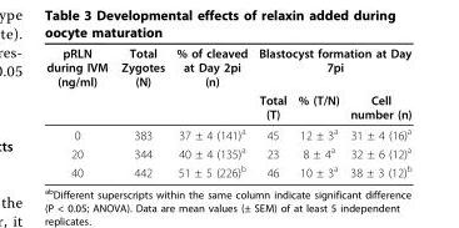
<table><thead><tr><td rowspan="2">pRLN during IVM (ng/ml)</td><td rowspan="2">Total Zygotes (N)</td><td rowspan="2">% of cleaved at Day 2pi (n)</td><td colspan="3">Blastocyst formation at Day 7pi</td></tr><tr><td>Total (T)</td><td>% (T/N)</td><td>Cell number (n)</td></tr></thead><tbody><tr><td>0</td><td>383</td><td>37 ± 4 (141)<sup>a</sup></td><td>45</td><td>12 ± 3<sup>a</sup></td><td>31 ± 4 (16)<sup>a</sup></td></tr><tr><td>20</td><td>344</td><td>40 ± 4 (135)<sup>a</sup></td><td>23</td><td>8 ± 4<sup>a</sup></td><td>32 ± 6 (12)<sup>a</sup></td></tr><tr><td>40</td><td>442</td><td>51 ± 5 (226)<sup>b</sup></td><td>46</td><td>10 ± 3<sup>a</sup></td><td>38 ± 3 (12)<sup>b</sup></td></tr></tbody></table>